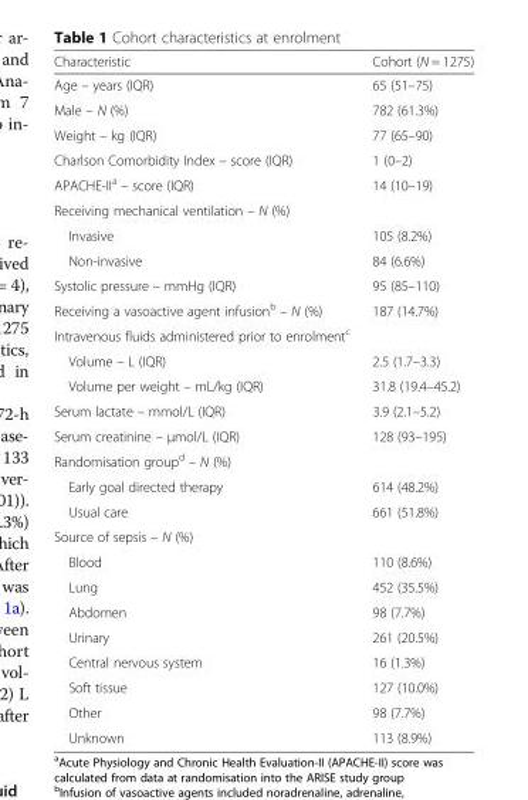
<table><thead><tr><td>Characteristic</td><td>Cohort (N = 1275)</td></tr></thead><tbody><tr><td>Age – years (IQR)</td><td>65 (51–75)</td></tr><tr><td>Male – N (%)</td><td>782 (61.3%)</td></tr><tr><td>Weight – kg (IQR)</td><td>77 (65–90)</td></tr><tr><td>Charlson Comorbidity Index – score (IQR)</td><td>1 (0–2)</td></tr><tr><td>APACHE-II<sup>a</sup> – score (IQR)</td><td>14 (10–19)</td></tr><tr><td colspan="2">Receiving mechanical ventilation – N (%)</td></tr><tr><td>Invasive</td><td>105 (8.2%)</td></tr><tr><td>Non-invasive</td><td>84 (6.6%)</td></tr><tr><td>Systolic pressure – mmHg (IQR)</td><td>95 (85–110)</td></tr><tr><td>Receiving a vasoactive agent infusion<sup>b</sup> – N (%)</td><td>187 (14.7%)</td></tr><tr><td colspan="2">Intravenous fluids administered prior to enrolment<sup>c</sup></td></tr><tr><td>Volume – L (IQR)</td><td>2.5 (1.7–3.3)</td></tr><tr><td>Volume per weight – mL/kg (IQR)</td><td>31.8 (19.4–45.2)</td></tr><tr><td>Serum lactate – mmol/L (IQR)</td><td>3.9 (2.1–5.2)</td></tr><tr><td>Serum creatinine – μmol/L (IQR)</td><td>128 (93–195)</td></tr><tr><td colspan="2">Randomisation group<sup>d</sup> – N (%)</td></tr><tr><td>Early goal directed therapy</td><td>614 (48.2%)</td></tr><tr><td>Usual care</td><td>661 (51.8%)</td></tr><tr><td colspan="2">Source of sepsis – N (%)</td></tr><tr><td>Blood</td><td>110 (8.6%)</td></tr><tr><td>Lung</td><td>452 (35.5%)</td></tr><tr><td>Abdomen</td><td>98 (7.7%)</td></tr><tr><td>Urinary</td><td>261 (20.5%)</td></tr><tr><td>Central nervous system</td><td>16 (1.3%)</td></tr><tr><td>Soft tissue</td><td>127 (10.0%)</td></tr><tr><td>Other</td><td>98 (7.7%)</td></tr><tr><td>Unknown</td><td>113 (8.9%)</td></tr></tbody></table>